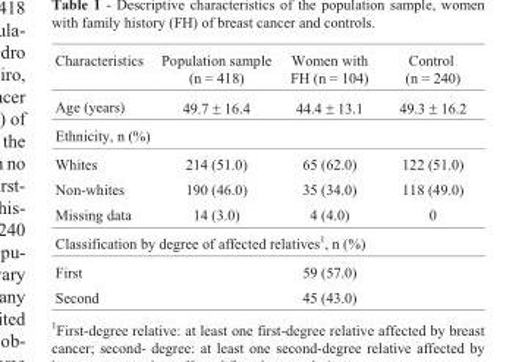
<table><thead><tr><td>Characteristics</td><td>Population sample (n = 418)</td><td>Women with FH (n = 104)</td><td>Control (n = 240)</td></tr></thead><tbody><tr><td>Age (years)</td><td>49.7 ± 16.4</td><td>44.4 ± 13.1</td><td>49.3 ± 16.2</td></tr><tr><td colspan="4">Ethnicity, n (%)</td></tr><tr><td>Whites</td><td>214 (51.0)</td><td>65 (62.0)</td><td>122 (51.0)</td></tr><tr><td>Non-whites</td><td>190 (46.0)</td><td>35 (34.0)</td><td>118 (49.0)</td></tr><tr><td>Missing data</td><td>14 (3.0)</td><td>4 (4.0)</td><td>0</td></tr><tr><td colspan="4">Classification by degree of affected relatives<sup>1</sup>, n (%)</td></tr><tr><td>First</td><td></td><td>59 (57.0)</td><td></td></tr><tr><td>Second</td><td></td><td>45 (43.0)</td><td></td></tr></tbody></table>